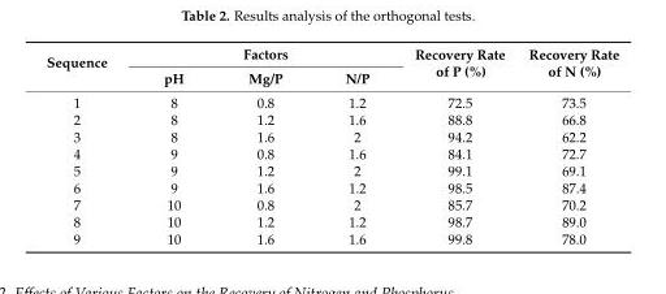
<table><thead><tr><td rowspan="2">Sequence</td><td colspan="3">Factors</td><td rowspan="2">Recovery Rate of P (%)</td><td rowspan="2">Recovery Rate of N (%)</td></tr><tr><td>pH</td><td>Mg/P</td><td>N/P</td></tr></thead><tbody><tr><td>1</td><td>8</td><td>0.8</td><td>1.2</td><td>72.5</td><td>73.5</td></tr><tr><td>2</td><td>8</td><td>1.2</td><td>1.6</td><td>88.8</td><td>66.8</td></tr><tr><td>3</td><td>8</td><td>1.6</td><td>2</td><td>94.2</td><td>62.2</td></tr><tr><td>4</td><td>9</td><td>0.8</td><td>1.6</td><td>84.1</td><td>72.7</td></tr><tr><td>5</td><td>9</td><td>1.2</td><td>2</td><td>99.1</td><td>69.1</td></tr><tr><td>6</td><td>9</td><td>1.6</td><td>1.2</td><td>98.5</td><td>87.4</td></tr><tr><td>7</td><td>10</td><td>0.8</td><td>2</td><td>85.7</td><td>70.2</td></tr><tr><td>8</td><td>10</td><td>1.2</td><td>1.2</td><td>98.7</td><td>89.0</td></tr><tr><td>9</td><td>10</td><td>1.6</td><td>1.6</td><td>99.8</td><td>78.0</td></tr></tbody></table>